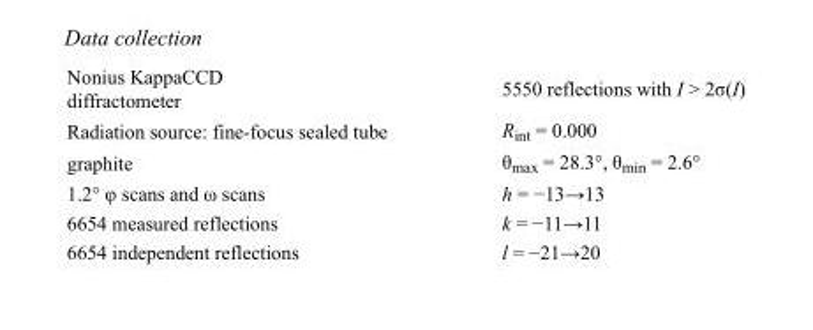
<table><tbody><tr><td>Nonius KappaCCD diffractometer</td><td>5550 reflections with I &gt; 2σ(I)</td></tr><tr><td>Radiation source: fine-focus sealed tube</td><td>R<sub>int</sub> = 0.000</td></tr><tr><td>graphite</td><td>θ<sub>max</sub> = 28.3°, θ<sub>min</sub> = 2.6°</td></tr><tr><td>1.2° φ scans and ω scans</td><td>h = −13→13</td></tr><tr><td>6654 measured reflections</td><td>k = −11→11</td></tr><tr><td>6654 independent reflections</td><td>l = −21→20</td></tr></tbody></table>